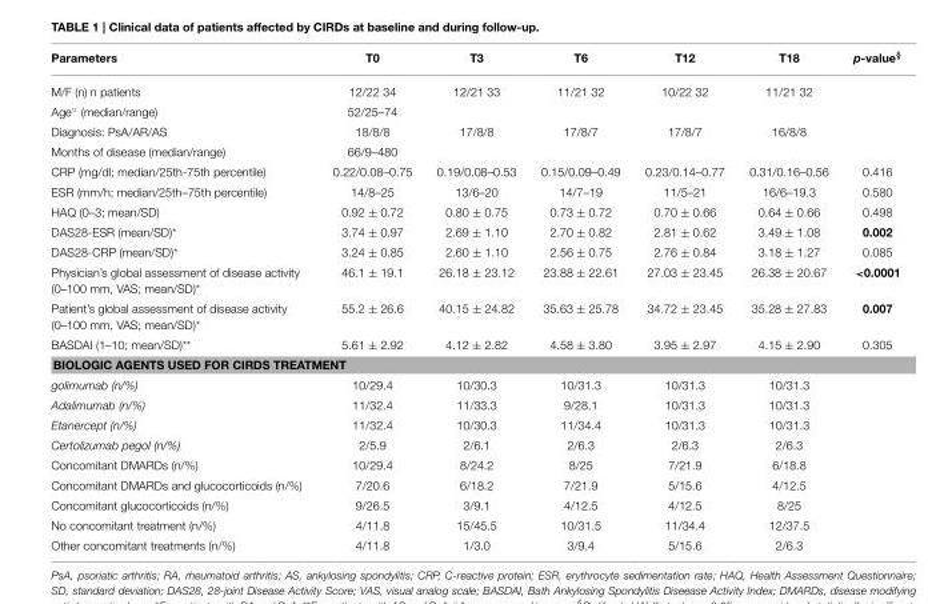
<table><thead><tr><td>Parameters</td><td>T0</td><td>T3</td><td>T6</td><td>T12</td><td>T18</td><td>p-value<sup>§</sup></td></tr></thead><tbody><tr><td>M/F (n) n patients</td><td>12/22 34</td><td>12/21 33</td><td>11/21 32</td><td>10/22 32</td><td>11/21 32</td><td></td></tr><tr><td>Age◦ (median/range)</td><td>52/25–74</td><td></td><td></td><td></td><td></td><td></td></tr><tr><td>Diagnosis: PsA/AR/AS</td><td>18/8/8</td><td>17/8/8</td><td>17/8/7</td><td>17/8/7</td><td>16/8/8</td><td></td></tr><tr><td>Months of disease (median/range)</td><td>66/9–480</td><td></td><td></td><td></td><td></td><td></td></tr><tr><td>CRP (mg/dl; median/25th-75th percentile)</td><td>0.22/0.08–0.75</td><td>0.19/0.08–0.53</td><td>0.15/0.09–0.49</td><td>0.23/0.14–0.77</td><td>0.31/0.16–0.56</td><td>0.416</td></tr><tr><td>ESR (mm/h; median/25th–75th percentile)</td><td>14/8–25</td><td>13/6–20</td><td>14/7–19</td><td>11/5–21</td><td>16/6–19.3</td><td>0.580</td></tr><tr><td>HAQ (0–3; mean/SD)</td><td>0.92 ± 0.72</td><td>0.80 ± 0.75</td><td>0.73 ± 0.72</td><td>0.70 ± 0.66</td><td>0.64 ± 0.66</td><td>0.498</td></tr><tr><td>DAS28-ESR (mean/SD)*</td><td>3.74 ± 0.97</td><td>2.69 ± 1.10</td><td>2.70 ± 0.82</td><td>2.81 ± 0.62</td><td>3.49 ± 1.08</td><td>0.002</td></tr><tr><td>DAS28-CRP (mean/SD)*</td><td>3.24 ± 0.85</td><td>2.60 ± 1.10</td><td>2.56 ± 0.75</td><td>2.76 ± 0.84</td><td>3.18 ± 1.27</td><td>0.085</td></tr><tr><td>Physician’s global assessment of disease activity (0–100 mm, VAS; mean/SD)*</td><td>46.1 ± 19.1</td><td>26.18 ± 23.12</td><td>23.88 ± 22.61</td><td>27.03 ± 23.45</td><td>26.38 ± 20.67</td><td>&lt;0.0001</td></tr><tr><td>Patient’s global assessment of disease activity (0–100 mm, VAS; mean/SD)*</td><td>55.2 ± 26.6</td><td>40.15 ± 24.82</td><td>35.63 ± 25.78</td><td>34.72 ± 23.45</td><td>35.28 ± 27.83</td><td>0.007</td></tr><tr><td>BASDAI (1–10; mean/SD)**</td><td>5.61 ± 2.92</td><td>4.12 ± 2.82</td><td>4.58 ± 3.80</td><td>3.95 ± 2.97</td><td>4.15 ± 2.90</td><td>0.305</td></tr><tr><td colspan="7">BIOLOGIC AGENTS USED FOR CIRDS TREATMENT</td></tr><tr><td>golimumab (n/%)</td><td>10/29.4</td><td>10/30.3</td><td>10/31.3</td><td>10/31.3</td><td>10/31.3</td><td></td></tr><tr><td>Adalimumab (n/%)</td><td>11/32.4</td><td>11/33.3</td><td>9/28.1</td><td>10/31.3</td><td>10/31.3</td><td></td></tr><tr><td>Etanercept (n/%)</td><td>11/32.4</td><td>10/30.3</td><td>11/34.4</td><td>10/31.3</td><td>10/31.3</td><td></td></tr><tr><td>Certolizumab pegol (n/%)</td><td>2/5.9</td><td>2/6.1</td><td>2/6.3</td><td>2/6.3</td><td>2/6.3</td><td></td></tr><tr><td>Concomitant DMARDs (n/%)</td><td>10/29.4</td><td>8/24.2</td><td>8/25</td><td>7/21.9</td><td>6/18.8</td><td></td></tr><tr><td>Concomitant DMARDs and glucocorticoids (n/%)</td><td>7/20.6</td><td>6/18.2</td><td>7/21.9</td><td>5/15.6</td><td>4/12.5</td><td></td></tr><tr><td>Concomitant glucocorticoids (n/%)</td><td>9/26.5</td><td>3/9.1</td><td>4/12.5</td><td>4/12.5</td><td>8/25</td><td></td></tr><tr><td>No concomitant treatment (n/%)</td><td>4/11.8</td><td>15/45.5</td><td>10/31.5</td><td>11/34.4</td><td>12/37.5</td><td></td></tr><tr><td>Other concomitant treatments (n/%)</td><td>4/11.8</td><td>1/3.0</td><td>3/9.4</td><td>5/15.6</td><td>2/6.3</td><td></td></tr></tbody></table>